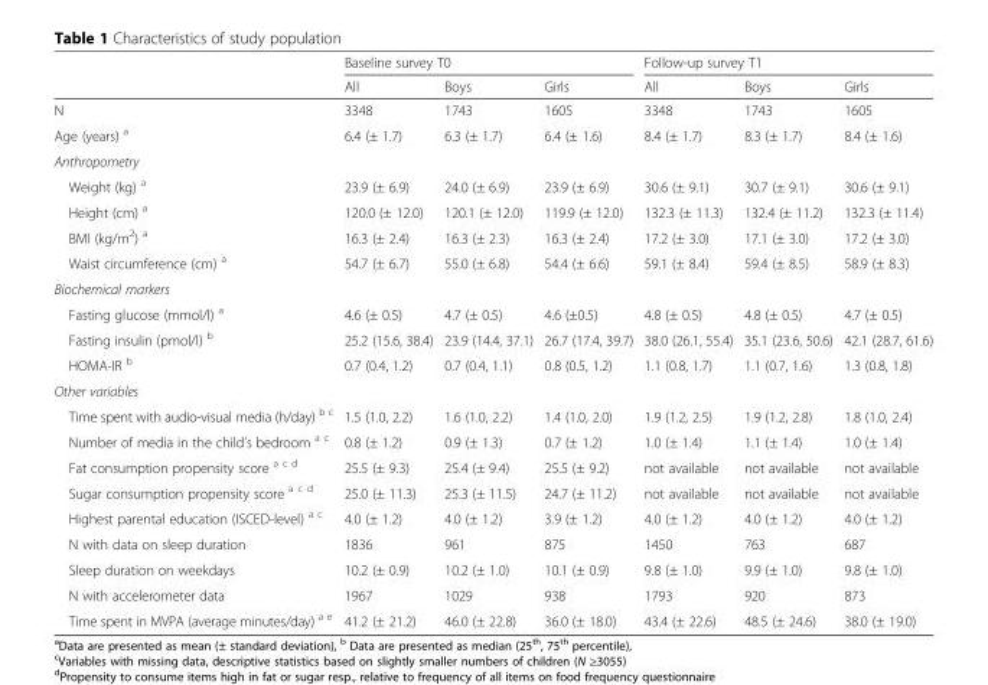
<table><thead><tr><td rowspan="2"></td><td colspan="3">Baseline survey T0</td><td colspan="3">Follow-up survey T1</td></tr><tr><td>All</td><td>Boys</td><td>Girls</td><td>All</td><td>Boys</td><td>Girls</td></tr></thead><tbody><tr><td>N</td><td>3348</td><td>1743</td><td>1605</td><td>3348</td><td>1743</td><td>1605</td></tr><tr><td>Age (years) <sup>a</sup></td><td>6.4 (± 1.7)</td><td>6.3 (± 1.7)</td><td>6.4 (± 1.6)</td><td>8.4 (± 1.7)</td><td>8.3 (± 1.7)</td><td>8.4 (± 1.6)</td></tr><tr><td colspan="7">Anthropometry</td></tr><tr><td>Weight (kg) <sup>a</sup></td><td>23.9 (± 6.9)</td><td>24.0 (± 6.9)</td><td>23.9 (± 6.9)</td><td>30.6 (± 9.1)</td><td>30.7 (± 9.1)</td><td>30.6 (± 9.1)</td></tr><tr><td>Height (cm) <sup>a</sup></td><td>120.0 (± 12.0)</td><td>120.1 (± 12.0)</td><td>119.9 (± 12.0)</td><td>132.3 (± 11.3)</td><td>132.4 (± 11.2)</td><td>132.3 (± 11.4)</td></tr><tr><td>BMI (kg/m<sup>2</sup>) <sup>a</sup></td><td>16.3 (± 2.4)</td><td>16.3 (± 2.3)</td><td>16.3 (± 2.4)</td><td>17.2 (± 3.0)</td><td>17.1 (± 3.0)</td><td>17.2 (± 3.0)</td></tr><tr><td>Waist circumference (cm) <sup>a</sup></td><td>54.7 (± 6.7)</td><td>55.0 (± 6.8)</td><td>54.4 (± 6.6)</td><td>59.1 (± 8.4)</td><td>59.4 (± 8.5)</td><td>58.9 (± 8.3)</td></tr><tr><td colspan="7">Biochemical markers</td></tr><tr><td>Fasting glucose (mmol/l) <sup>a</sup></td><td>4.6 (± 0.5)</td><td>4.7 (± 0.5)</td><td>4.6 (±0.5)</td><td>4.8 (± 0.5)</td><td>4.8 (± 0.5)</td><td>4.7 (± 0.5)</td></tr><tr><td>Fasting insulin (pmol/l) <sup>b</sup></td><td>25.2 (15.6, 38.4)</td><td>23.9 (14.4, 37.1)</td><td>26.7 (17.4, 39.7)</td><td>38.0 (26.1, 55.4)</td><td>35.1 (23.6, 50.6)</td><td>42.1 (28.7, 61.6)</td></tr><tr><td>HOMA-IR <sup>b</sup></td><td>0.7 (0.4, 1.2)</td><td>0.7 (0.4, 1.1)</td><td>0.8 (0.5, 1.2)</td><td>1.1 (0.8, 1.7)</td><td>1.1 (0.7, 1.6)</td><td>1.3 (0.8, 1.8)</td></tr><tr><td colspan="7">Other variables</td></tr><tr><td>Time spent with audio-visual media (h/day) <sup>b c</sup></td><td>1.5 (1.0, 2.2)</td><td>1.6 (1.0, 2.2)</td><td>1.4 (1.0, 2.0)</td><td>1.9 (1.2, 2.5)</td><td>1.9 (1.2, 2.8)</td><td>1.8 (1.0, 2.4)</td></tr><tr><td>Number of media in the child’s bedroom <sup>a c</sup></td><td>0.8 (± 1.2)</td><td>0.9 (± 1.3)</td><td>0.7 (± 1.2)</td><td>1.0 (± 1.4)</td><td>1.1 (± 1.4)</td><td>1.0 (± 1.4)</td></tr><tr><td>Fat consumption propensity score <sup>a c d</sup></td><td>25.5 (± 9.3)</td><td>25.4 (± 9.4)</td><td>25.5 (± 9.2)</td><td>not available</td><td>not available</td><td>not available</td></tr><tr><td>Sugar consumption propensity score <sup>a c d</sup></td><td>25.0 (± 11.3)</td><td>25.3 (± 11.5)</td><td>24.7 (± 11.2)</td><td>not available</td><td>not available</td><td>not available</td></tr><tr><td>Highest parental education (ISCED-level) <sup>a c</sup></td><td>4.0 (± 1.2)</td><td>4.0 (± 1.2)</td><td>3.9 (± 1.2)</td><td>4.0 (± 1.2)</td><td>4.0 (± 1.2)</td><td>4.0 (± 1.2)</td></tr><tr><td>N with data on sleep duration</td><td>1836</td><td>961</td><td>875</td><td>1450</td><td>763</td><td>687</td></tr><tr><td>Sleep duration on weekdays</td><td>10.2 (± 0.9)</td><td>10.2 (± 1.0)</td><td>10.1 (± 0.9)</td><td>9.8 (± 1.0)</td><td>9.9 (± 1.0)</td><td>9.8 (± 1.0)</td></tr><tr><td>N with accelerometer data</td><td>1967</td><td>1029</td><td>938</td><td>1793</td><td>920</td><td>873</td></tr><tr><td>Time spent in MVPA (average minutes/day) <sup>a e</sup></td><td>41.2 (± 21.2)</td><td>46.0 (± 22.8)</td><td>36.0 (± 18.0)</td><td>43.4 (± 22.6)</td><td>48.5 (± 24.6)</td><td>38.0 (± 19.0)</td></tr></tbody></table>